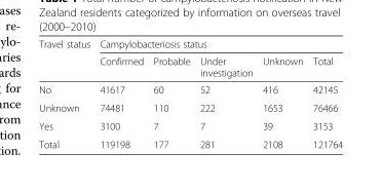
<table><thead><tr><td rowspan="2">Travel status</td><td colspan="5">Campylobacteriosis status</td></tr><tr><td>Confirmed</td><td>Probable</td><td>Under investigation</td><td>Unknown</td><td>Total</td></tr></thead><tbody><tr><td>No</td><td>41617</td><td>60</td><td>52</td><td>416</td><td>42145</td></tr><tr><td>Unknown</td><td>74481</td><td>110</td><td>222</td><td>1653</td><td>76466</td></tr><tr><td>Yes</td><td>3100</td><td>7</td><td>7</td><td>39</td><td>3153</td></tr><tr><td>Total</td><td>119198</td><td>177</td><td>281</td><td>2108</td><td>121764</td></tr></tbody></table>